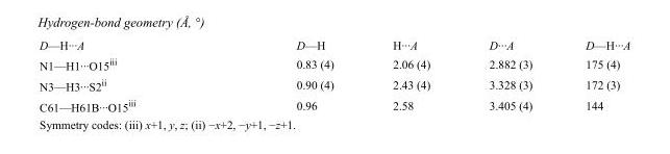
<table><tbody><tr><td>D—H···A</td><td>D—H</td><td>H···A</td><td>D···A</td><td>D—H···A</td></tr><tr><td>N1—H1···O15<sup>iii</sup></td><td>0.83 (4)</td><td>2.06 (4)</td><td>2.882 (3)</td><td>175 (4)</td></tr><tr><td>N3—H3···S2<sup>ii</sup></td><td>0.90 (4)</td><td>2.43 (4)</td><td>3.328 (3)</td><td>172 (3)</td></tr><tr><td>C61—H61B···O15<sup>iii</sup></td><td>0.96</td><td>2.58</td><td>3.405 (4)</td><td>144</td></tr></tbody></table>